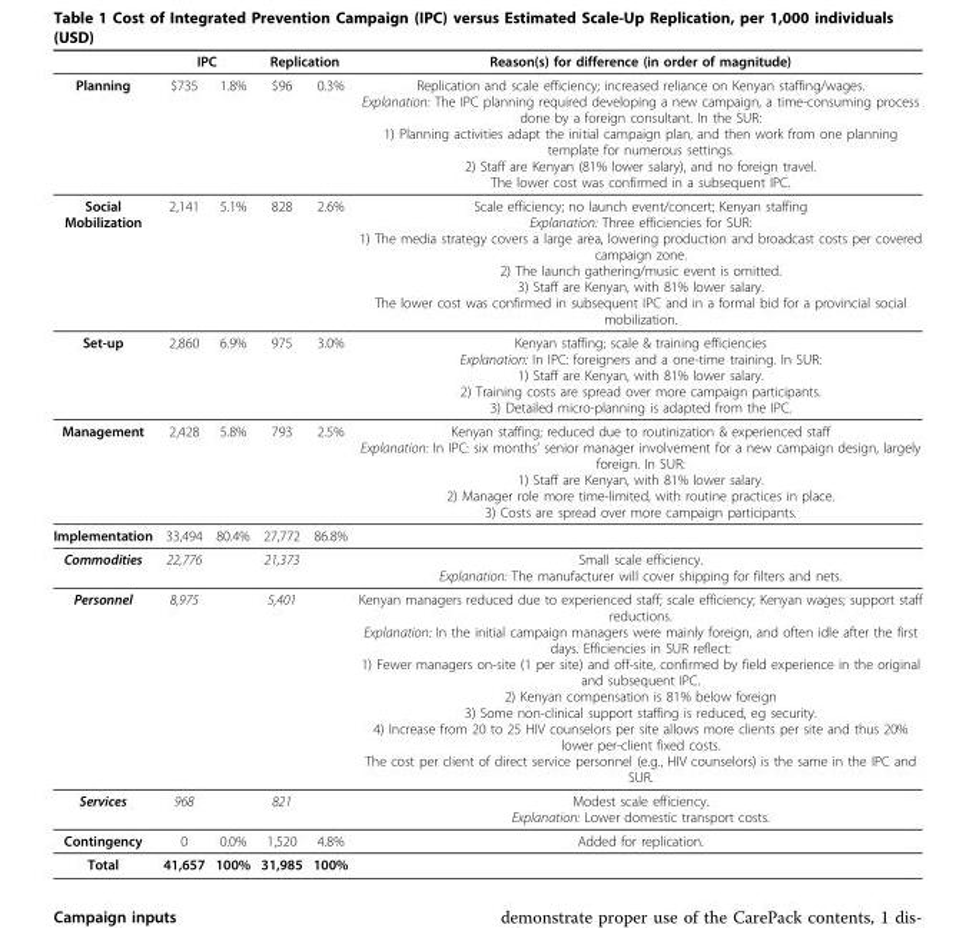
<table><thead><tr><td rowspan="2">Planning</td><td colspan="2">IPC</td><td colspan="2">Replication</td><td rowspan="2">Reason(s) for difference (in order of magnitude) Replication and scale efficiency; increased reliance on Kenyan staffing/wages. Explanation: The IPC planning required developing a new campaign, a time-consuming process done by a foreign consultant. In the SUR: 1) Planning activities adapt the initial campaign plan, and then work from one planning template for numerous settings. 2) Staff are Kenyan (81% lower salary), and no foreign travel. The lower cost was confirmed in a subsequent IPC.</td></tr><tr><td>$735</td><td>1.8%</td><td>$96</td><td>0.3%</td></tr></thead><tbody><tr><td>Social Mobilization</td><td>2,141</td><td>5.1%</td><td>828</td><td>2.6%</td><td>Scale efficiency; no launch event/concert; Kenyan staffing Explanation: Three efficiencies for SUR: 1) The media strategy covers a large area, lowering production and broadcast costs per covered campaign zone. 2) The launch gathering/music event is omitted. 3) Staff are Kenyan, with 81% lower salary. The lower cost was confirmed in subsequent IPC and in a formal bid for a provincial social mobilization.</td></tr><tr><td>Set-up</td><td>2,860</td><td>6.9%</td><td>975</td><td>3.0%</td><td>Kenyan staffing; scale &amp; training efficiencies Explanation: In IPC: foreigners and a one-time training. In SUR: 1) Staff are Kenyan, with 81% lower salary. 2) Training costs are spread over more campaign participants. 3) Detailed micro-planning is adapted from the IPC.</td></tr><tr><td>Management</td><td>2,428</td><td>5.8%</td><td>793</td><td>2.5%</td><td>Kenyan staffing; reduced due to routinization &amp; experienced staff Explanation: In IPC: six months’ senior manager involvement for a new campaign design, largely foreign. In SUR: 1) Staff are Kenyan, with 81% lower salary. 2) Manager role more time-limited, with routine practices in place. 3) Costs are spread over more campaign participants.</td></tr><tr><td>Implementation</td><td>33,494</td><td>80.4%</td><td>27,772</td><td>86.8%</td><td></td></tr><tr><td>Commodities</td><td>22,776</td><td></td><td>21,373</td><td></td><td>Small scale efficiency. Explanation: The manufacturer will cover shipping for filters and nets.</td></tr><tr><td>Personnel</td><td>8,975</td><td></td><td>5,401</td><td></td><td>Kenyan managers reduced due to experienced staff; scale efficiency; Kenyan wages; support staff reductions. Explanation: In the initial campaign managers were mainly foreign, and often idle after the first days. Efficiencies in SUR reflect: 1) Fewer managers on-site (1 per site) and off-site, confirmed by field experience in the original and subsequent IPC. 2) Kenyan compensation is 81% below foreign 3) Some non-clinical support staffing is reduced, eg security. 4) Increase from 20 to 25 HIV counselors per site allows more clients per site and thus 20% lower per-client fixed costs. The cost per client of direct service personnel (e.g., HIV counselors) is the same in the IPC and SUR.</td></tr><tr><td>Services</td><td>968</td><td></td><td>821</td><td></td><td>Modest scale efficiency. Explanation: Lower domestic transport costs.</td></tr><tr><td>Contingency</td><td>0</td><td>0.0%</td><td>1,520</td><td>4.8%</td><td>Added for replication.</td></tr><tr><td>Total</td><td>41,657</td><td>100%</td><td>31,985</td><td>100%</td><td></td></tr></tbody></table>